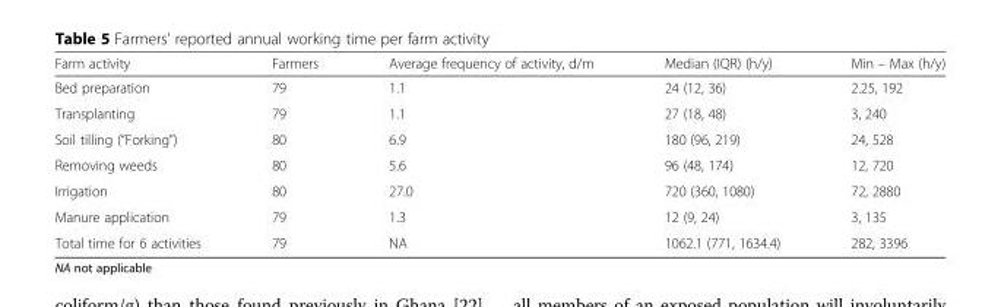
<table><thead><tr><td>Farm activity</td><td>Farmers</td><td>Average frequency of activity, d/m</td><td>Median (IQR) (h/y)</td><td>Min – Max (h/y)</td></tr></thead><tbody><tr><td>Bed preparation</td><td>79</td><td>1.1</td><td>24 (12, 36)</td><td>2.25, 192</td></tr><tr><td>Transplanting</td><td>79</td><td>1.1</td><td>27 (18, 48)</td><td>3, 240</td></tr><tr><td>Soil tilling (“Forking”)</td><td>80</td><td>6.9</td><td>180 (96, 219)</td><td>24, 528</td></tr><tr><td>Removing weeds</td><td>80</td><td>5.6</td><td>96 (48, 174)</td><td>12, 720</td></tr><tr><td>Irrigation</td><td>80</td><td>27.0</td><td>720 (360, 1080)</td><td>72, 2880</td></tr><tr><td>Manure application</td><td>79</td><td>1.3</td><td>12 (9, 24)</td><td>3, 135</td></tr><tr><td>Total time for 6 activities</td><td>79</td><td>NA</td><td>1062.1 (771, 1634.4)</td><td>282, 3396</td></tr></tbody></table>